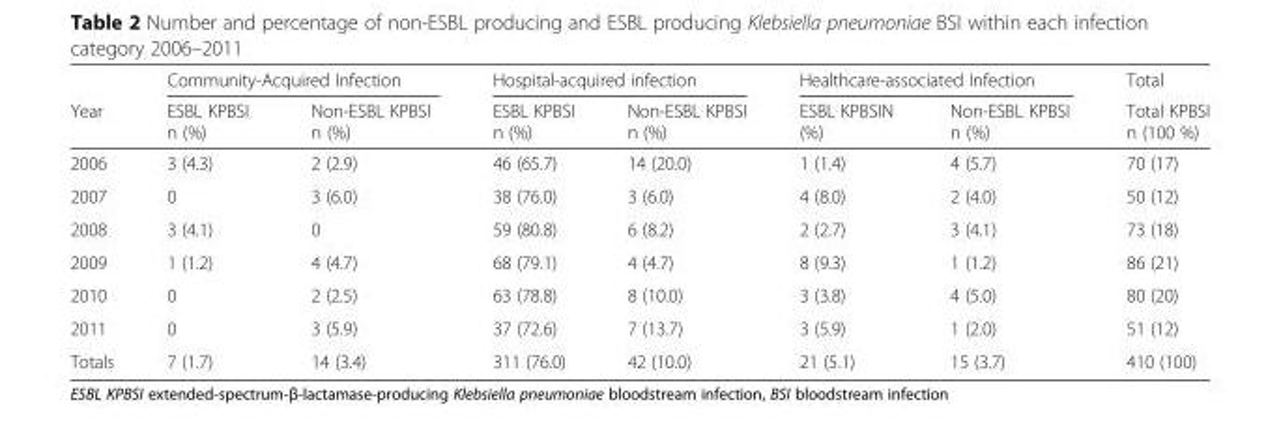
<table><thead><tr><td rowspan="2">Year</td><td colspan="2">Community-Acquired Infection</td><td colspan="2">Hospital-acquired infection</td><td colspan="2">Healthcare-associated Infection</td><td rowspan="2">Total Total KPBSI n (100 %)</td></tr><tr><td>ESBL KPBSI n (%)</td><td>Non-ESBL KPBSI n (%)</td><td>ESBL KPBSI n (%)</td><td>Non-ESBL KPBSI n (%)</td><td>ESBL KPBSIN (%)</td><td>Non-ESBL KPBSI n (%)</td></tr></thead><tbody><tr><td>2006</td><td>3 (4.3)</td><td>2 (2.9)</td><td>46 (65.7)</td><td>14 (20.0)</td><td>1 (1.4)</td><td>4 (5.7)</td><td>70 (17)</td></tr><tr><td>2007</td><td>0</td><td>3 (6.0)</td><td>38 (76.0)</td><td>3 (6.0)</td><td>4 (8.0)</td><td>2 (4.0)</td><td>50 (12)</td></tr><tr><td>2008</td><td>3 (4.1)</td><td>0</td><td>59 (80.8)</td><td>6 (8.2)</td><td>2 (2.7)</td><td>3 (4.1)</td><td>73 (18)</td></tr><tr><td>2009</td><td>1 (1.2)</td><td>4 (4.7)</td><td>68 (79.1)</td><td>4 (4.7)</td><td>8 (9.3)</td><td>1 (1.2)</td><td>86 (21)</td></tr><tr><td>2010</td><td>0</td><td>2 (2.5)</td><td>63 (78.8)</td><td>8 (10.0)</td><td>3 (3.8)</td><td>4 (5.0)</td><td>80 (20)</td></tr><tr><td>2011</td><td>0</td><td>3 (5.9)</td><td>37 (72.6)</td><td>7 (13.7)</td><td>3 (5.9)</td><td>1 (2.0)</td><td>51 (12)</td></tr><tr><td>Totals</td><td>7 (1.7)</td><td>14 (3.4)</td><td>311 (76.0)</td><td>42 (10.0)</td><td>21 (5.1)</td><td>15 (3.7)</td><td>410 (100)</td></tr></tbody></table>